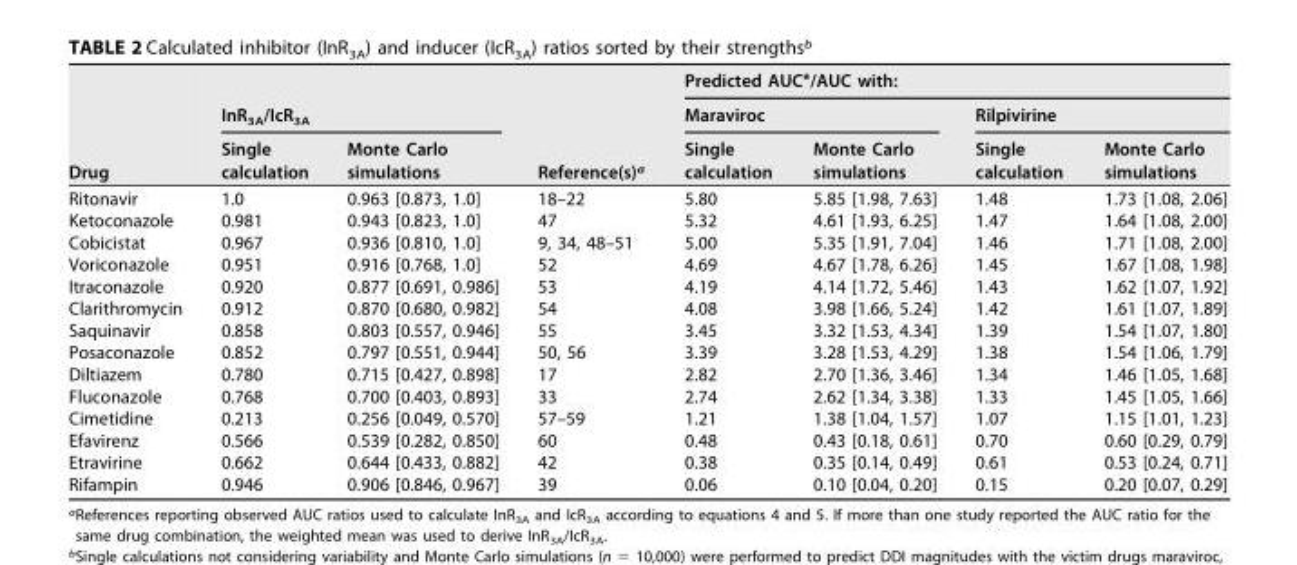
<table><thead><tr><td rowspan="3">Drug</td><td rowspan="2" colspan="2">InR<sub>3A</sub>/IcR<sub>3A</sub></td><td rowspan="3">Reference(s)<sup>a</sup></td><td colspan="4">Predicted AUC*/AUC with:</td></tr><tr><td colspan="2">Maraviroc</td><td colspan="2">Rilpivirine</td></tr><tr><td>Single calculation</td><td>Monte Carlo simulations</td><td>Single calculation</td><td>Monte Carlo simulations</td><td>Single calculation</td><td>Monte Carlo simulations</td></tr></thead><tbody><tr><td>Ritonavir</td><td>1.0</td><td>0.963 [0.873, 1.0]</td><td>18–22</td><td>5.80</td><td>5.85 [1.98, 7.63]</td><td>1.48</td><td>1.73 [1.08, 2.06]</td></tr><tr><td>Ketoconazole</td><td>0.981</td><td>0.943 [0.823, 1.0]</td><td>47</td><td>5.32</td><td>4.61 [1.93, 6.25]</td><td>1.47</td><td>1.64 [1.08, 2.00]</td></tr><tr><td>Cobicistat</td><td>0.967</td><td>0.936 [0.810, 1.0]</td><td>9, 34, 48–51</td><td>5.00</td><td>5.35 [1.91, 7.04]</td><td>1.46</td><td>1.71 [1.08, 2.00]</td></tr><tr><td>Voriconazole</td><td>0.951</td><td>0.916 [0.768, 1.0]</td><td>52</td><td>4.69</td><td>4.67 [1.78, 6.26]</td><td>1.45</td><td>1.67 [1.08, 1.98]</td></tr><tr><td>Itraconazole</td><td>0.920</td><td>0.877 [0.691, 0.986]</td><td>53</td><td>4.19</td><td>4.14 [1.72, 5.46]</td><td>1.43</td><td>1.62 [1.07, 1.92]</td></tr><tr><td>Clarithromycin</td><td>0.912</td><td>0.870 [0.680, 0.982]</td><td>54</td><td>4.08</td><td>3.98 [1.66, 5.24]</td><td>1.42</td><td>1.61 [1.07, 1.89]</td></tr><tr><td>Saquinavir</td><td>0.858</td><td>0.803 [0.557, 0.946]</td><td>55</td><td>3.45</td><td>3.32 [1.53, 4.34]</td><td>1.39</td><td>1.54 [1.07, 1.80]</td></tr><tr><td>Posaconazole</td><td>0.852</td><td>0.797 [0.551, 0.944]</td><td>50, 56</td><td>3.39</td><td>3.28 [1.53, 4.29]</td><td>1.38</td><td>1.54 [1.06, 1.79]</td></tr><tr><td>Diltiazem</td><td>0.780</td><td>0.715 [0.427, 0.898]</td><td>17</td><td>2.82</td><td>2.70 [1.36, 3.46]</td><td>1.34</td><td>1.46 [1.05, 1.68]</td></tr><tr><td>Fluconazole</td><td>0.768</td><td>0.700 [0.403, 0.893]</td><td>33</td><td>2.74</td><td>2.62 [1.34, 3.38]</td><td>1.33</td><td>1.45 [1.05, 1.66]</td></tr><tr><td>Cimetidine</td><td>0.213</td><td>0.256 [0.049, 0.570]</td><td>57–59</td><td>1.21</td><td>1.38 [1.04, 1.57]</td><td>1.07</td><td>1.15 [1.01, 1.23]</td></tr><tr><td>Efavirenz</td><td>0.566</td><td>0.539 [0.282, 0.850]</td><td>60</td><td>0.48</td><td>0.43 [0.18, 0.61]</td><td>0.70</td><td>0.60 [0.29, 0.79]</td></tr><tr><td>Etravirine</td><td>0.662</td><td>0.644 [0.433, 0.882]</td><td>42</td><td>0.38</td><td>0.35 [0.14, 0.49]</td><td>0.61</td><td>0.53 [0.24, 0.71]</td></tr><tr><td>Rifampin</td><td>0.946</td><td>0.906 [0.846, 0.967]</td><td>39</td><td>0.06</td><td>0.10 [0.04, 0.20]</td><td>0.15</td><td>0.20 [0.07, 0.29]</td></tr></tbody></table>